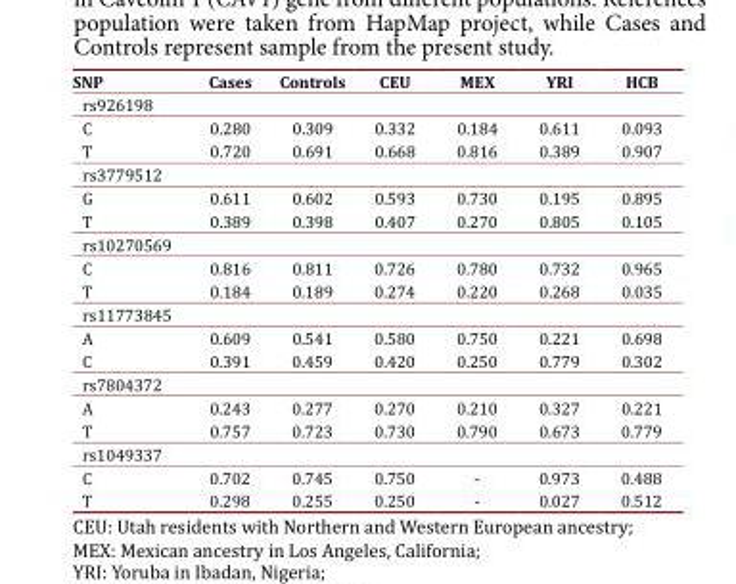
<table><thead><tr><td>SNP</td><td>Cases</td><td>Controls</td><td>CEU</td><td>MEX</td><td>YRI</td><td>HCB</td></tr></thead><tbody><tr><td colspan="7">rs926198</td></tr><tr><td>C</td><td>0.280</td><td>0.309</td><td>0.332</td><td>0.184</td><td>0.611</td><td>0.093</td></tr><tr><td>T</td><td>0.720</td><td>0.691</td><td>0.668</td><td>0.816</td><td>0.389</td><td>0.907</td></tr><tr><td colspan="7">rs3779512</td></tr><tr><td>G</td><td>0.611</td><td>0.602</td><td>0.593</td><td>0.730</td><td>0.195</td><td>0.895</td></tr><tr><td>T</td><td>0.389</td><td>0.398</td><td>0.407</td><td>0.270</td><td>0.805</td><td>0.105</td></tr><tr><td colspan="7">rs10270569</td></tr><tr><td>C</td><td>0.816</td><td>0.811</td><td>0.726</td><td>0.780</td><td>0.732</td><td>0.965</td></tr><tr><td>T</td><td>0.184</td><td>0.189</td><td>0.274</td><td>0.220</td><td>0.268</td><td>0.035</td></tr><tr><td colspan="7">rs11773845</td></tr><tr><td>A</td><td>0.609</td><td>0.541</td><td>0.580</td><td>0.750</td><td>0.221</td><td>0.698</td></tr><tr><td>C</td><td>0.391</td><td>0.459</td><td>0.420</td><td>0.250</td><td>0.779</td><td>0.302</td></tr><tr><td colspan="7">rs7804372</td></tr><tr><td>A</td><td>0.243</td><td>0.277</td><td>0.270</td><td>0.210</td><td>0.327</td><td>0.221</td></tr><tr><td>T</td><td>0.757</td><td>0.723</td><td>0.730</td><td>0.790</td><td>0.673</td><td>0.779</td></tr><tr><td colspan="7">rs1049337</td></tr><tr><td>C</td><td>0.702</td><td>0.745</td><td>0.750</td><td>-</td><td>0.973</td><td>0.488</td></tr><tr><td>T</td><td>0.298</td><td>0.255</td><td>0.250</td><td>-</td><td>0.027</td><td>0.512</td></tr></tbody></table>